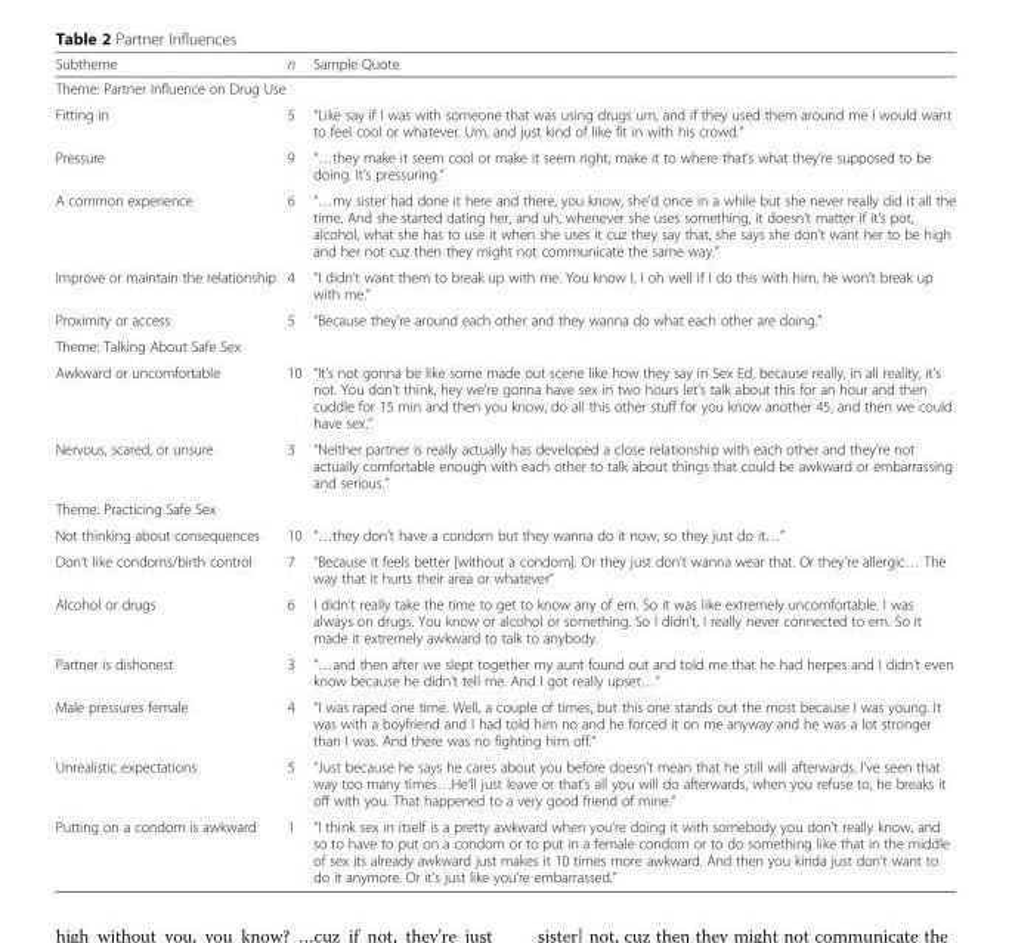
<table><thead><tr><td>Subtheme</td><td>n</td><td>Sample Quote</td></tr></thead><tbody><tr><td colspan="3">Theme: Partner Influence on Drug Use</td></tr><tr><td>Fitting in</td><td>5</td><td>“Like say if I was with someone that was using drugs um, and if they used them around me I would want to feel cool or whatever. Um, and just kind of like fit in with his crowd.”</td></tr><tr><td>Pressure</td><td>9</td><td>“…they make it seem cool or make it seem right, make it to where that’s what they’re supposed to be doing. It’s pressuring.”</td></tr><tr><td>A common experience</td><td>6</td><td>“…my sister had done it here and there, you know, she’d once in a while but she never really did it all the time. And she started dating her, and uh, whenever she uses something, it doesn’t matter if it’s pot, alcohol, what she has to use it when she uses it cuz they say that, she says she don’t want her to be high and her not cuz then they might not communicate the same way.”</td></tr><tr><td>Improve or maintain the relationship</td><td>4</td><td>“I didn’t want them to break up with me. You know I, I oh well if I do this with him, he won’t break up with me.”</td></tr><tr><td>Proximity or access</td><td>5</td><td>“Because they’re around each other and they wanna do what each other are doing.”</td></tr><tr><td colspan="3">Theme: Talking About Safe Sex</td></tr><tr><td>Awkward or uncomfortable</td><td>10</td><td>“It’s not gonna be like some made out scene like how they say in Sex Ed, because really, in all reality, it’s not. You don’t think, hey we’re gonna have sex in two hours let’s talk about this for an hour and then cuddle for 15 min and then you know, do all this other stuff for you know another 45, and then we could have sex.”</td></tr><tr><td>Nervous, scared, or unsure</td><td>3</td><td>“Neither partner is really actually has developed a close relationship with each other and they’re not actually comfortable enough with each other to talk about things that could be awkward or embarrassing and serious.”</td></tr><tr><td colspan="3">Theme: Practicing Safe Sex</td></tr><tr><td>Not thinking about consequences</td><td>10</td><td>“…they don’t have a condom but they wanna do it now, so they just do it…”</td></tr><tr><td>Don’t like condoms/birth control</td><td>7</td><td>“Because it feels better [without a condom]. Or they just don’t wanna wear that. Or they’re allergic… The way that it hurts their area or whatever”</td></tr><tr><td>Alcohol or drugs</td><td>6</td><td>I didn’t really take the time to get to know any of em. So it was like extremely uncomfortable. I was always on drugs. You know or alcohol or something. So I didn’t, I really never connected to em. So it made it extremely awkward to talk to anybody.</td></tr><tr><td>Partner is dishonest</td><td>3</td><td>“…and then after we slept together my aunt found out and told me that he had herpes and I didn’t even know because he didn’t tell me. And I got really upset…”</td></tr><tr><td>Male pressures female</td><td>4</td><td>“I was raped one time. Well, a couple of times, but this one stands out the most because I was young. It was with a boyfriend and I had told him no and he forced it on me anyway and he was a lot stronger than I was. And there was no fighting him off.”</td></tr><tr><td>Unrealistic expectations</td><td>5</td><td>“Just because he says he cares about you before doesn’t mean that he still will afterwards. I’ve seen that way too many times…He’ll just leave or that’s all you will do afterwards, when you refuse to, he breaks it off with you. That happened to a very good friend of mine.”</td></tr><tr><td>Putting on a condom is awkward</td><td>1</td><td>“I think sex in itself is a pretty awkward when you’re doing it with somebody you don’t really know, and so to have to put on a condom or to put in a female condom or to do something like that in the middle of sex its already awkward just makes it 10 times more awkward. And then you kinda just don’t want to do it anymore. Or it’s just like you’re embarrassed.”</td></tr></tbody></table>